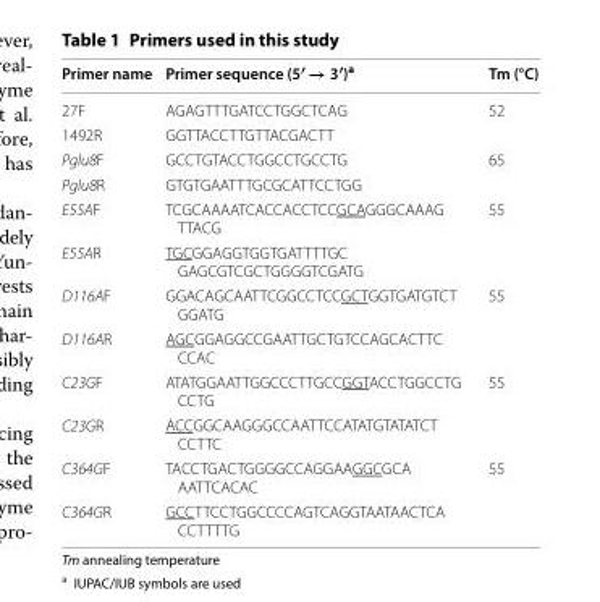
<table><thead><tr><td>Primer name</td><td>Primer sequence (5′ → 3′)<sup>a</sup></td><td>Tm (°C)</td></tr></thead><tbody><tr><td>27F</td><td>AGAGTTTGATCCTGGCTCAG</td><td rowspan="2">52</td></tr><tr><td>1492R</td><td>GGTTACCTTGTTACGACTT</td></tr><tr><td>Pglu8F</td><td>GCCTGTACCTGGCCTGCCTG</td><td rowspan="2">65</td></tr><tr><td>Pglu8R</td><td>GTGTGAATTTGCGCATTCCTGG</td></tr><tr><td>E55AF</td><td>TCGCAAAATCACCACCTCCGCAGGGCAAAG TTACG</td><td rowspan="2">55</td></tr><tr><td>E55AR</td><td>TGCGGAGGTGGTGATTTTGC GAGCGTCGCTGGGGTCGATG</td></tr><tr><td>D116AF</td><td>GGACAGCAATTCGGCCTCCGCTGGTGATGTCT GGATG</td><td rowspan="2">55</td></tr><tr><td>D116AR</td><td>AGCGGAGGCCGAATTGCTGTCCAGCACTTC CCAC</td></tr><tr><td>C23GF</td><td>ATATGGAATTGGCCCTTGCCGGTACCTGGCCTG CCTG</td><td rowspan="2">55</td></tr><tr><td>C23GR</td><td>ACCGGCAAGGGCCAATTCCATATGTATATCT CCTTC</td></tr><tr><td>C364GF</td><td>TACCTGACTGGGGCCAGGAAGGCGCA AATTCACAC</td><td rowspan="2">55</td></tr><tr><td>C364GR</td><td>GCCTTCCTGGCCCCAGTCAGGTAATAACTCA CCTTTTG</td></tr></tbody></table>